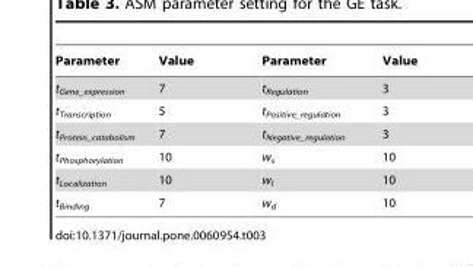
<table><thead><tr><td>Parameter</td><td>Value</td><td>Parameter</td><td>Value</td></tr></thead><tbody><tr><td>t<sub>Gene_expression</sub></td><td>7</td><td>t<sub>Regulation</sub></td><td>3</td></tr><tr><td>t<sub>Transcription</sub></td><td>5</td><td>t<sub>Positive_regulation</sub></td><td>3</td></tr><tr><td>t<sub>Protein_catabolism</sub></td><td>7</td><td>t<sub>Negative_regulation</sub></td><td>3</td></tr><tr><td>t<sub>Phosphorylation</sub></td><td>10</td><td>w<sub>s</sub></td><td>10</td></tr><tr><td>t<sub>Localization</sub></td><td>10</td><td>w<sub>l</sub></td><td>10</td></tr><tr><td>t<sub>Binding</sub></td><td>7</td><td>w<sub>d</sub></td><td>10</td></tr></tbody></table>